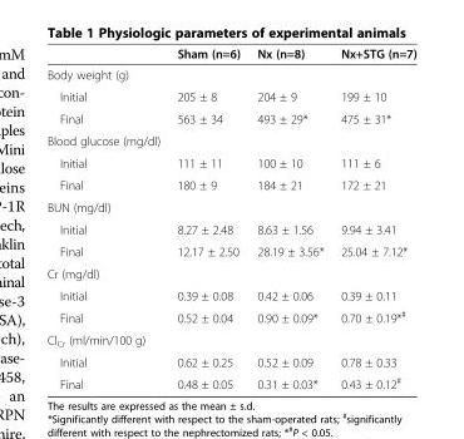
<table><thead><tr><td></td><td>Sham (n=6)</td><td>Nx (n=8)</td><td>Nx+STG (n=7)</td></tr></thead><tbody><tr><td colspan="4">Body weight (g)</td></tr><tr><td>Initial</td><td>205 ± 8</td><td>204 ± 9</td><td>199 ± 10</td></tr><tr><td>Final</td><td>563 ± 34</td><td>493 ± 29*</td><td>475 ± 31*</td></tr><tr><td colspan="4">Blood glucose (mg/dl)</td></tr><tr><td>Initial</td><td>111 ± 11</td><td>100 ± 10</td><td>111 ± 6</td></tr><tr><td>Final</td><td>180 ± 9</td><td>184 ± 21</td><td>172 ± 21</td></tr><tr><td colspan="4">BUN (mg/dl)</td></tr><tr><td>Initial</td><td>8.27 ± 2.48</td><td>8.63 ± 1.56</td><td>9.94 ± 3.41</td></tr><tr><td>Final</td><td>12.17 ± 2.50</td><td>28.19 ± 3.56*</td><td>25.04 ± 7.12*</td></tr><tr><td colspan="4">Cr (mg/dl)</td></tr><tr><td>Initial</td><td>0.39 ± 0.08</td><td>0.42 ± 0.06</td><td>0.39 ± 0.11</td></tr><tr><td>Final</td><td>0.52 ± 0.04</td><td>0.90 ± 0.09*</td><td>0.70 ± 0.19*<sup>#</sup></td></tr><tr><td colspan="4">Cl<sub>Cr</sub> (ml/min/100 g)</td></tr><tr><td>Initial</td><td>0.62 ± 0.25</td><td>0.52 ± 0.09</td><td>0.78 ± 0.33</td></tr><tr><td>Final</td><td>0.48 ± 0.05</td><td>0.31 ± 0.03*</td><td>0.43 ± 0.12<sup>#</sup></td></tr></tbody></table>